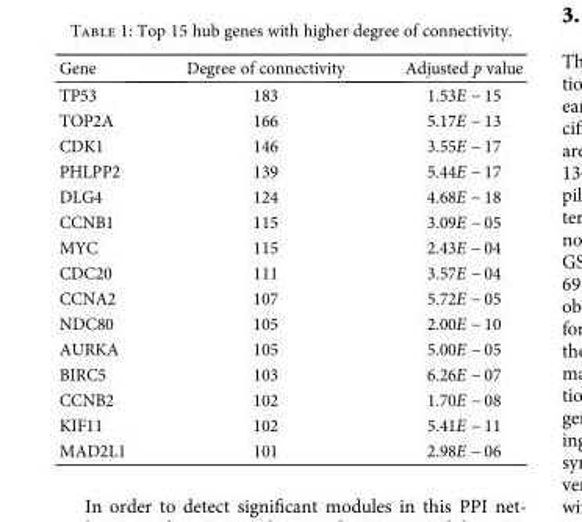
<table><thead><tr><td>Gene</td><td>Degree of connectivity</td><td>Adjusted p value</td></tr></thead><tbody><tr><td>TP53</td><td>183</td><td>1.53E − 15</td></tr><tr><td>TOP2A</td><td>166</td><td>5.17E − 13</td></tr><tr><td>CDK1</td><td>146</td><td>3.55E − 17</td></tr><tr><td>PHLPP2</td><td>139</td><td>5.44E − 17</td></tr><tr><td>DLG4</td><td>124</td><td>4.68E − 18</td></tr><tr><td>CCNB1</td><td>115</td><td>3.09E − 05</td></tr><tr><td>MYC</td><td>115</td><td>2.43E − 04</td></tr><tr><td>CDC20</td><td>111</td><td>3.57E − 04</td></tr><tr><td>CCNA2</td><td>107</td><td>5.72E − 05</td></tr><tr><td>NDC80</td><td>105</td><td>2.00E − 10</td></tr><tr><td>AURKA</td><td>105</td><td>5.00E − 05</td></tr><tr><td>BIRC5</td><td>103</td><td>6.26E − 07</td></tr><tr><td>CCNB2</td><td>102</td><td>1.70E − 08</td></tr><tr><td>KIF11</td><td>102</td><td>5.41E − 11</td></tr><tr><td>MAD2L1</td><td>101</td><td>2.98E − 06</td></tr></tbody></table>